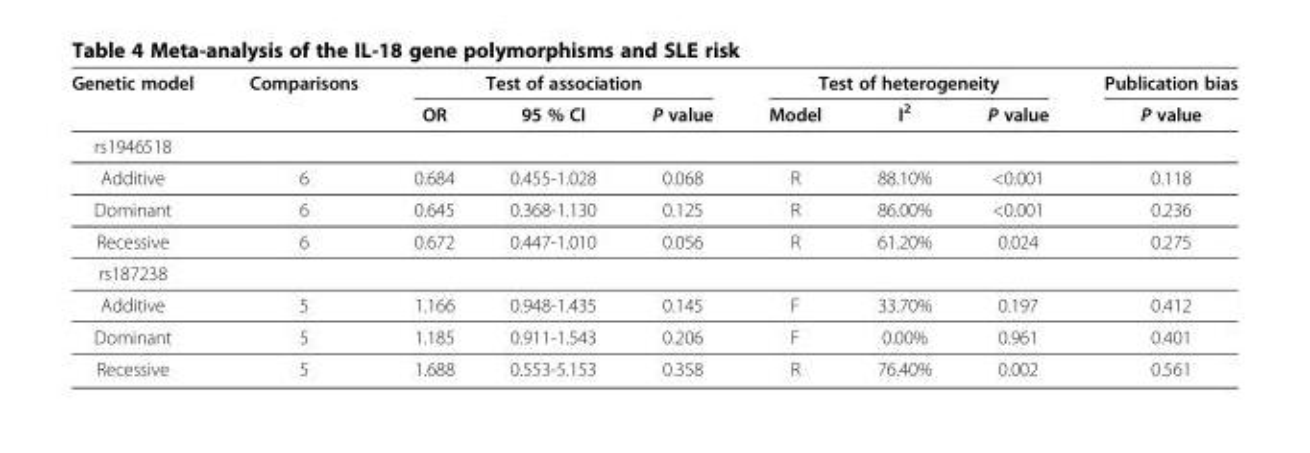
<table><thead><tr><td rowspan="2">Genetic model</td><td rowspan="2">Comparisons</td><td colspan="3">Test of association</td><td colspan="3">Test of heterogeneity</td><td rowspan="2">Publication bias P value</td></tr><tr><td>OR</td><td>95 % CI</td><td>P value</td><td>Model</td><td>I<sup>2</sup></td><td>P value</td></tr></thead><tbody><tr><td colspan="9">rs1946518</td></tr><tr><td>Additive</td><td>6</td><td>0.684</td><td>0.455-1.028</td><td>0.068</td><td>R</td><td>88.10%</td><td>&lt;0.001</td><td>0.118</td></tr><tr><td>Dominant</td><td>6</td><td>0.645</td><td>0.368-1.130</td><td>0.125</td><td>R</td><td>86.00%</td><td>&lt;0.001</td><td>0.236</td></tr><tr><td>Recessive</td><td>6</td><td>0.672</td><td>0.447-1.010</td><td>0.056</td><td>R</td><td>61.20%</td><td>0.024</td><td>0.275</td></tr><tr><td colspan="9">rs187238</td></tr><tr><td>Additive</td><td>5</td><td>1.166</td><td>0.948-1.435</td><td>0.145</td><td>F</td><td>33.70%</td><td>0.197</td><td>0.412</td></tr><tr><td>Dominant</td><td>5</td><td>1.185</td><td>0.911-1.543</td><td>0.206</td><td>F</td><td>0.00%</td><td>0.961</td><td>0.401</td></tr><tr><td>Recessive</td><td>5</td><td>1.688</td><td>0.553-5.153</td><td>0.358</td><td>R</td><td>76.40%</td><td>0.002</td><td>0.561</td></tr></tbody></table>